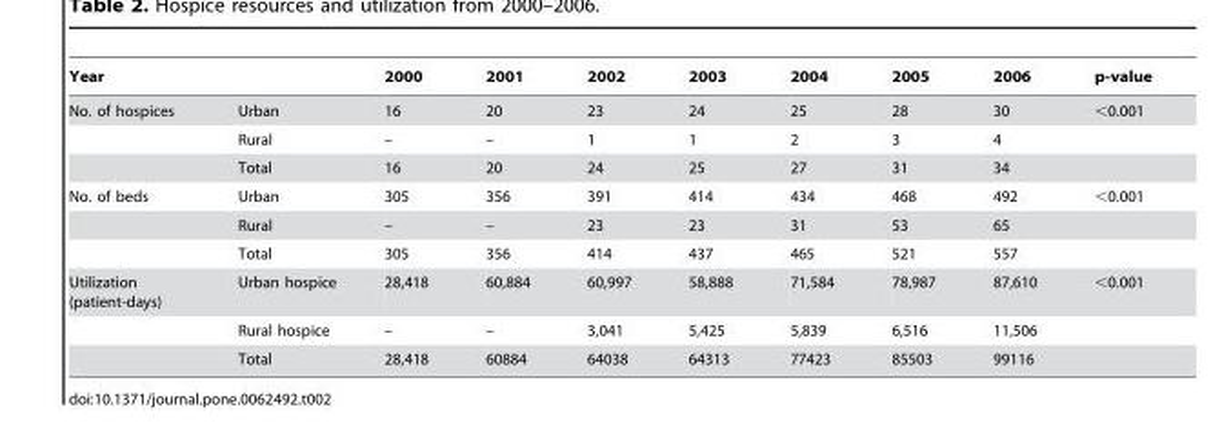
<table><thead><tr><td>Year</td><td></td><td>2000</td><td>2001</td><td>2002</td><td>2003</td><td>2004</td><td>2005</td><td>2006</td><td>p-value</td></tr></thead><tbody><tr><td rowspan="3">No. of hospices</td><td>Urban</td><td>16</td><td>20</td><td>23</td><td>24</td><td>25</td><td>28</td><td>30</td><td>&lt;0.001</td></tr><tr><td>Rural</td><td>–</td><td>–</td><td>1</td><td>1</td><td>2</td><td>3</td><td>4</td><td></td></tr><tr><td>Total</td><td>16</td><td>20</td><td>24</td><td>25</td><td>27</td><td>31</td><td>34</td><td></td></tr><tr><td rowspan="3">No. of beds</td><td>Urban</td><td>305</td><td>356</td><td>391</td><td>414</td><td>434</td><td>468</td><td>492</td><td>&lt;0.001</td></tr><tr><td>Rural</td><td>–</td><td>–</td><td>23</td><td>23</td><td>31</td><td>53</td><td>65</td><td></td></tr><tr><td>Total</td><td>305</td><td>356</td><td>414</td><td>437</td><td>465</td><td>521</td><td>557</td><td></td></tr><tr><td rowspan="3">Utilization (patient-days)</td><td>Urban hospice</td><td>28,418</td><td>60,884</td><td>60,997</td><td>58,888</td><td>71,584</td><td>78,987</td><td>87,610</td><td>&lt;0.001</td></tr><tr><td>Rural hospice</td><td>–</td><td>–</td><td>3,041</td><td>5,425</td><td>5,839</td><td>6,516</td><td>11,506</td><td></td></tr><tr><td>Total</td><td>28,418</td><td>60884</td><td>64038</td><td>64313</td><td>77423</td><td>85503</td><td>99116</td><td></td></tr></tbody></table>